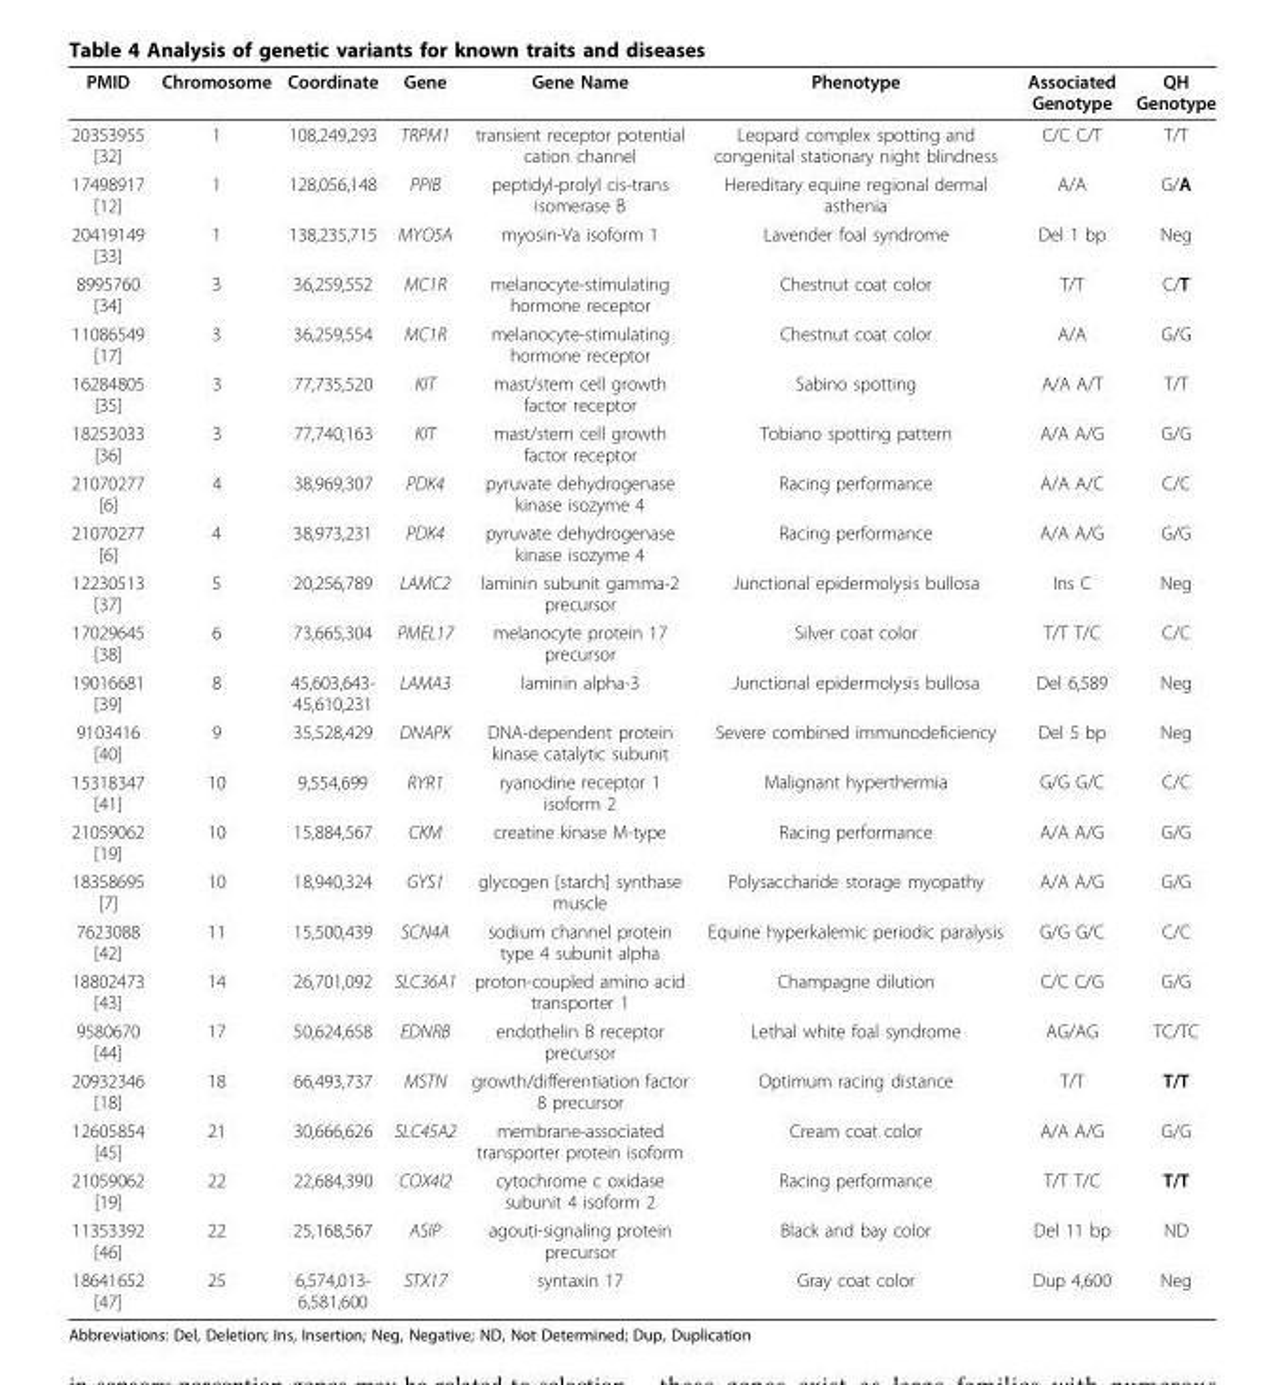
<table><thead><tr><td>PMID</td><td>Chromosome</td><td>Coordinate</td><td>Gene</td><td>Gene Name</td><td>Phenotype</td><td>Associated Genotype</td><td>QH Genotype</td></tr></thead><tbody><tr><td>20353955 [32]</td><td>1</td><td>108,249,293</td><td>TRPM1</td><td>transient receptor potential cation channel</td><td>Leopard complex spotting and congenital stationary night blindness</td><td>C/C C/T</td><td>T/T</td></tr><tr><td>17498917 [12]</td><td>1</td><td>128,056,148</td><td>PPIB</td><td>peptidyl-prolyl cis-trans isomerase B</td><td>Hereditary equine regional dermal asthenia</td><td>A/A</td><td>G/A</td></tr><tr><td>20419149 [33]</td><td>1</td><td>138,235,715</td><td>MYO5A</td><td>myosin-Va isoform 1</td><td>Lavender foal syndrome</td><td>Del 1 bp</td><td>Neg</td></tr><tr><td>8995760 [34]</td><td>3</td><td>36,259,552</td><td>MC1R</td><td>melanocyte-stimulating hormone receptor</td><td>Chestnut coat color</td><td>T/T</td><td>C/T</td></tr><tr><td>11086549 [17]</td><td>3</td><td>36,259,554</td><td>MC1R</td><td>melanocyte-stimulating hormone receptor</td><td>Chestnut coat color</td><td>A/A</td><td>G/G</td></tr><tr><td>16284805 [35]</td><td>3</td><td>77,735,520</td><td>KIT</td><td>mast/stem cell growth factor receptor</td><td>Sabino spotting</td><td>A/A A/T</td><td>T/T</td></tr><tr><td>18253033 [36]</td><td>3</td><td>77,740,163</td><td>KIT</td><td>mast/stem cell growth factor receptor</td><td>Tobiano spotting pattern</td><td>A/A A/G</td><td>G/G</td></tr><tr><td>21070277 [6]</td><td>4</td><td>38,969,307</td><td>PDK4</td><td>pyruvate dehydrogenase kinase isozyme 4</td><td>Racing performance</td><td>A/A A/C</td><td>C/C</td></tr><tr><td>21070277 [6]</td><td>4</td><td>38,973,231</td><td>PDK4</td><td>pyruvate dehydrogenase kinase isozyme 4</td><td>Racing performance</td><td>A/A A/G</td><td>G/G</td></tr><tr><td>12230513 [37]</td><td>5</td><td>20,256,789</td><td>LAMC2</td><td>laminin subunit gamma-2 precursor</td><td>Junctional epidermolysis bullosa</td><td>Ins C</td><td>Neg</td></tr><tr><td>17029645 [38]</td><td>6</td><td>73,665,304</td><td>PMEL17</td><td>melanocyte protein 17 precursor</td><td>Silver coat color</td><td>T/T T/C</td><td>C/C</td></tr><tr><td>19016681 [39]</td><td>8</td><td>45,603,643- 45,610,231</td><td>LAMA3</td><td>laminin alpha-3</td><td>Junctional epidermolysis bullosa</td><td>Del 6,589</td><td>Neg</td></tr><tr><td>9103416 [40]</td><td>9</td><td>35,528,429</td><td>DNAPK</td><td>DNA-dependent protein kinase catalytic subunit</td><td>Severe combined immunodeficiency</td><td>Del 5 bp</td><td>Neg</td></tr><tr><td>15318347 [41]</td><td>10</td><td>9,554,699</td><td>RYR1</td><td>ryanodine receptor 1 isoform 2</td><td>Malignant hyperthermia</td><td>G/G G/C</td><td>C/C</td></tr><tr><td>21059062 [19]</td><td>10</td><td>15,884,567</td><td>CKM</td><td>creatine kinase M-type</td><td>Racing performance</td><td>A/A A/G</td><td>G/G</td></tr><tr><td>18358695 [7]</td><td>10</td><td>18,940,324</td><td>GYS1</td><td>glycogen [starch] synthase muscle</td><td>Polysaccharide storage myopathy</td><td>A/A A/G</td><td>G/G</td></tr><tr><td>7623088 [42]</td><td>11</td><td>15,500,439</td><td>SCN4A</td><td>sodium channel protein type 4 subunit alpha</td><td>Equine hyperkalemic periodic paralysis</td><td>G/G G/C</td><td>C/C</td></tr><tr><td>18802473 [43]</td><td>14</td><td>26,701,092</td><td>SLC36A1</td><td>proton-coupled amino acid transporter 1</td><td>Champagne dilution</td><td>C/C C/G</td><td>G/G</td></tr><tr><td>9580670 [44]</td><td>17</td><td>50,624,658</td><td>EDNRB</td><td>endothelin B receptor precursor</td><td>Lethal white foal syndrome</td><td>AG/AG</td><td>TC/TC</td></tr><tr><td>20932346 [18]</td><td>18</td><td>66,493,737</td><td>MSTN</td><td>growth/differentiation factor 8 precursor</td><td>Optimum racing distance</td><td>T/T</td><td>T/T</td></tr><tr><td>12605854 [45]</td><td>21</td><td>30,666,626</td><td>SLC45A2</td><td>membrane-associated transporter protein isoform</td><td>Cream coat color</td><td>A/A A/G</td><td>G/G</td></tr><tr><td>21059062 [19]</td><td>22</td><td>22,684,390</td><td>COX4I2</td><td>cytochrome c oxidase subunit 4 isoform 2</td><td>Racing performance</td><td>T/T T/C</td><td>T/T</td></tr><tr><td>11353392 [46]</td><td>22</td><td>25,168,567</td><td>ASIP</td><td>agouti-signaling protein precursor</td><td>Black and bay color</td><td>Del 11 bp</td><td>ND</td></tr><tr><td>18641652 [47]</td><td>25</td><td>6,574,013- 6,581,600</td><td>STX17</td><td>syntaxin 17</td><td>Gray coat color</td><td>Dup 4,600</td><td>Neg</td></tr></tbody></table>